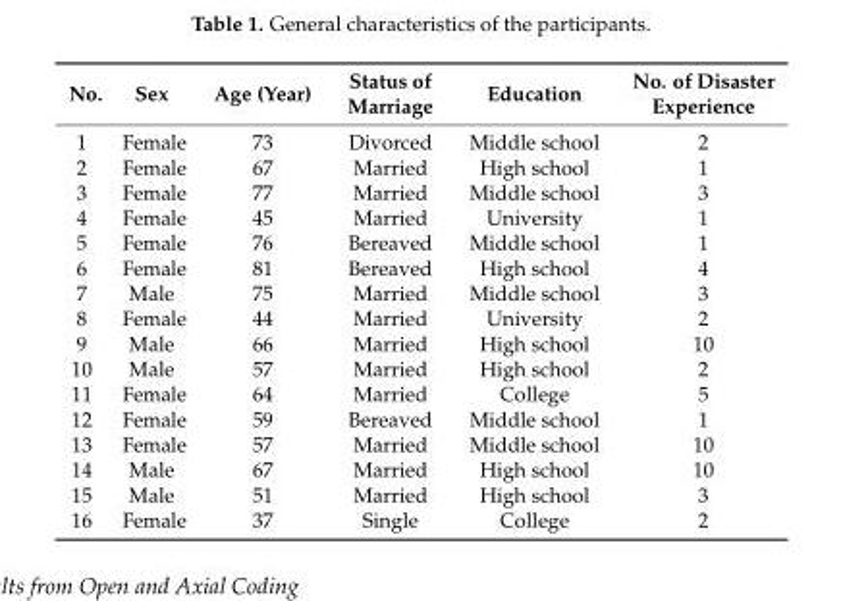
<table><thead><tr><td>No.</td><td>Sex</td><td>Age (Year)</td><td>Status of Marriage</td><td>Education</td><td>No. of Disaster Experience</td></tr></thead><tbody><tr><td>1</td><td>Female</td><td>73</td><td>Divorced</td><td>Middle school</td><td>2</td></tr><tr><td>2</td><td>Female</td><td>67</td><td>Married</td><td>High school</td><td>1</td></tr><tr><td>3</td><td>Female</td><td>77</td><td>Married</td><td>Middle school</td><td>3</td></tr><tr><td>4</td><td>Female</td><td>45</td><td>Married</td><td>University</td><td>1</td></tr><tr><td>5</td><td>Female</td><td>76</td><td>Bereaved</td><td>Middle school</td><td>1</td></tr><tr><td>6</td><td>Female</td><td>81</td><td>Bereaved</td><td>High school</td><td>4</td></tr><tr><td>7</td><td>Male</td><td>75</td><td>Married</td><td>Middle school</td><td>3</td></tr><tr><td>8</td><td>Female</td><td>44</td><td>Married</td><td>University</td><td>2</td></tr><tr><td>9</td><td>Male</td><td>66</td><td>Married</td><td>High school</td><td>10</td></tr><tr><td>10</td><td>Male</td><td>57</td><td>Married</td><td>High school</td><td>2</td></tr><tr><td>11</td><td>Female</td><td>64</td><td>Married</td><td>College</td><td>5</td></tr><tr><td>12</td><td>Female</td><td>59</td><td>Bereaved</td><td>Middle school</td><td>1</td></tr><tr><td>13</td><td>Female</td><td>57</td><td>Married</td><td>Middle school</td><td>10</td></tr><tr><td>14</td><td>Male</td><td>67</td><td>Married</td><td>High school</td><td>10</td></tr><tr><td>15</td><td>Male</td><td>51</td><td>Married</td><td>High school</td><td>3</td></tr><tr><td>16</td><td>Female</td><td>37</td><td>Single</td><td>College</td><td>2</td></tr></tbody></table>